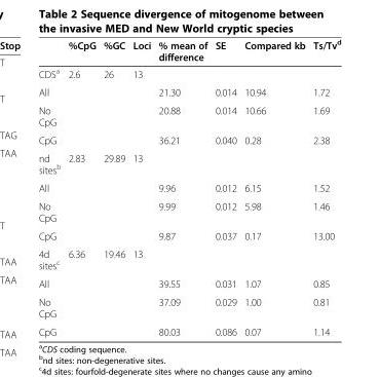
<table><thead><tr><td></td><td>%CpG</td><td>%GC</td><td>Loci</td><td>% mean of difference</td><td>SE</td><td>Compared kb</td><td>Ts/Tv<sup>d</sup></td></tr></thead><tbody><tr><td>CDS<sup>a</sup></td><td>2.6</td><td>26</td><td>13</td><td></td><td></td><td></td><td></td></tr><tr><td>All</td><td></td><td></td><td></td><td>21.30</td><td>0.014</td><td>10.94</td><td>1.72</td></tr><tr><td>No CpG</td><td></td><td></td><td></td><td>20.88</td><td>0.014</td><td>10.66</td><td>1.69</td></tr><tr><td>CpG</td><td></td><td></td><td></td><td>36.21</td><td>0.040</td><td>0.28</td><td>2.38</td></tr><tr><td>nd sites<sup>b</sup></td><td>2.83</td><td>29.89</td><td>13</td><td></td><td></td><td></td><td></td></tr><tr><td>All</td><td></td><td></td><td></td><td>9.96</td><td>0.012</td><td>6.15</td><td>1.52</td></tr><tr><td>No CpG</td><td></td><td></td><td></td><td>9.99</td><td>0.012</td><td>5.98</td><td>1.46</td></tr><tr><td>CpG</td><td></td><td></td><td></td><td>9.87</td><td>0.037</td><td>0.17</td><td>13.00</td></tr><tr><td>4d sites<sup>c</sup></td><td>6.36</td><td>19.46</td><td>13</td><td></td><td></td><td></td><td></td></tr><tr><td>All</td><td></td><td></td><td></td><td>39.55</td><td>0.031</td><td>1.07</td><td>0.85</td></tr><tr><td>No CpG</td><td></td><td></td><td></td><td>37.09</td><td>0.029</td><td>1.00</td><td>0.81</td></tr><tr><td>CpG</td><td></td><td></td><td></td><td>80.03</td><td>0.086</td><td>0.07</td><td>1.14</td></tr></tbody></table>